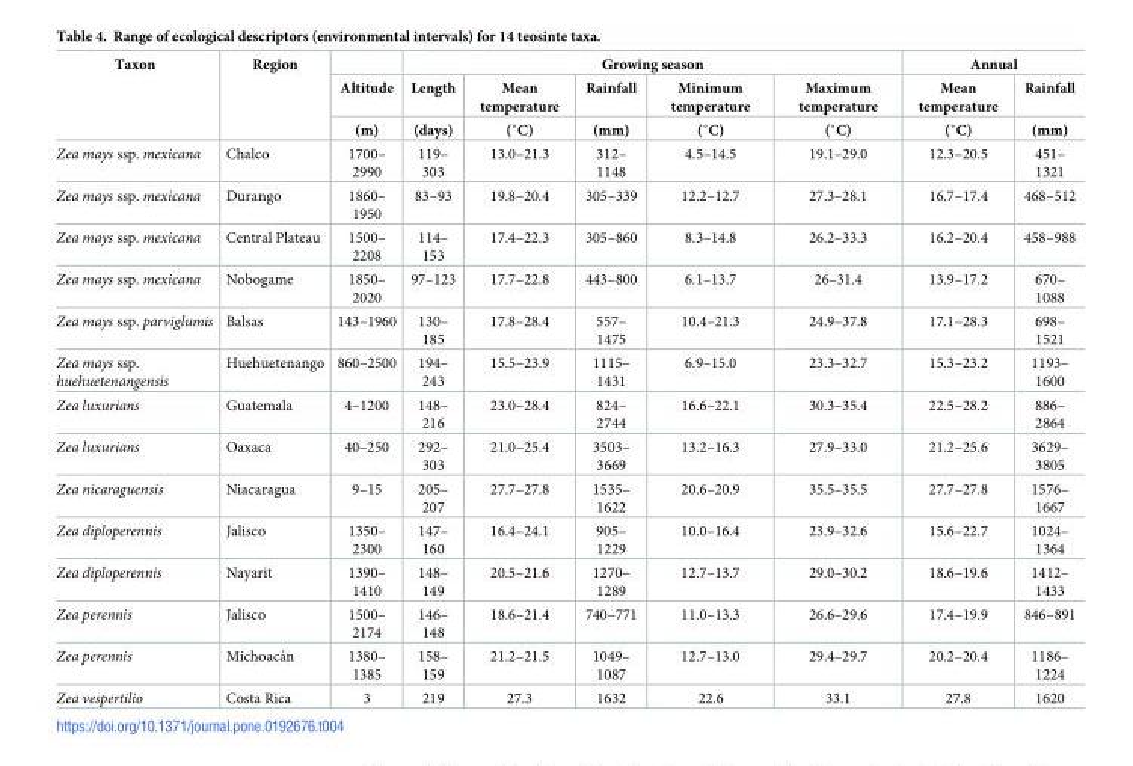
<table><thead><tr><td rowspan="3">Taxon</td><td rowspan="3">Region</td><td rowspan="3">Altitude (m)</td><td colspan="5">Growing season</td><td colspan="2">Annual</td></tr><tr><td rowspan="2">Length (days)</td><td rowspan="2">Mean temperature (˚C)</td><td rowspan="2">Rainfall (mm)</td><td rowspan="2">Minimum temperature (˚C)</td><td rowspan="2">Maximum temperature (˚C)</td><td rowspan="2">Mean temperature (˚C)</td><td rowspan="2">Rainfall (mm)</td></tr><tr></tr></thead><tbody><tr><td>Zea mays ssp. mexicana</td><td>Chalco</td><td>1700– 2990</td><td>119– 303</td><td>13.0–21.3</td><td>312– 1148</td><td>4.5–14.5</td><td>19.1–29.0</td><td>12.3–20.5</td><td>451– 1321</td></tr><tr><td>Zea mays ssp. mexicana</td><td>Durango</td><td>1860– 1950</td><td>83–93</td><td>19.8–20.4</td><td>305–339</td><td>12.2–12.7</td><td>27.3–28.1</td><td>16.7–17.4</td><td>468–512</td></tr><tr><td>Zea mays ssp. mexicana</td><td>Central Plateau</td><td>1500– 2208</td><td>114– 153</td><td>17.4–22.3</td><td>305–860</td><td>8.3–14.8</td><td>26.2–33.3</td><td>16.2–20.4</td><td>458–988</td></tr><tr><td>Zea mays ssp. mexicana</td><td>Nobogame</td><td>1850– 2020</td><td>97–123</td><td>17.7–22.8</td><td>443–800</td><td>6.1–13.7</td><td>26–31.4</td><td>13.9–17.2</td><td>670– 1088</td></tr><tr><td>Zea mays ssp. parviglumis</td><td>Balsas</td><td>143–1960</td><td>130– 185</td><td>17.8–28.4</td><td>557– 1475</td><td>10.4–21.3</td><td>24.9–37.8</td><td>17.1–28.3</td><td>698– 1521</td></tr><tr><td>Zea mays ssp. huehuetenangensis</td><td>Huehuetenango</td><td>860–2500</td><td>194– 243</td><td>15.5–23.9</td><td>1115– 1431</td><td>6.9–15.0</td><td>23.3–32.7</td><td>15.3–23.2</td><td>1193– 1600</td></tr><tr><td>Zea luxurians</td><td>Guatemala</td><td>4–1200</td><td>148– 216</td><td>23.0–28.4</td><td>824– 2744</td><td>16.6–22.1</td><td>30.3–35.4</td><td>22.5–28.2</td><td>886– 2864</td></tr><tr><td>Zea luxurians</td><td>Oaxaca</td><td>40–250</td><td>292– 303</td><td>21.0–25.4</td><td>3503– 3669</td><td>13.2–16.3</td><td>27.9–33.0</td><td>21.2–25.6</td><td>3629– 3805</td></tr><tr><td>Zea nicaraguensis</td><td>Niacaragua</td><td>9–15</td><td>205– 207</td><td>27.7–27.8</td><td>1535– 1622</td><td>20.6–20.9</td><td>35.5–35.5</td><td>27.7–27.8</td><td>1576– 1667</td></tr><tr><td>Zea diploperennis</td><td>Jalisco</td><td>1350– 2300</td><td>147– 160</td><td>16.4–24.1</td><td>905– 1229</td><td>10.0–16.4</td><td>23.9–32.6</td><td>15.6–22.7</td><td>1024– 1364</td></tr><tr><td>Zea diploperennis</td><td>Nayarit</td><td>1390– 1410</td><td>148– 149</td><td>20.5–21.6</td><td>1270– 1289</td><td>12.7–13.7</td><td>29.0–30.2</td><td>18.6–19.6</td><td>1412– 1433</td></tr><tr><td>Zea perennis</td><td>Jalisco</td><td>1500– 2174</td><td>146– 148</td><td>18.6–21.4</td><td>740–771</td><td>11.0–13.3</td><td>26.6–29.6</td><td>17.4–19.9</td><td>846–891</td></tr><tr><td>Zea perennis</td><td>Michoaca´n</td><td>1380– 1385</td><td>158– 159</td><td>21.2–21.5</td><td>1049– 1087</td><td>12.7–13.0</td><td>29.4–29.7</td><td>20.2–20.4</td><td>1186– 1224</td></tr><tr><td>Zea vespertilio</td><td>Costa Rica</td><td>3</td><td>219</td><td>27.3</td><td>1632</td><td>22.6</td><td>33.1</td><td>27.8</td><td>1620</td></tr></tbody></table>